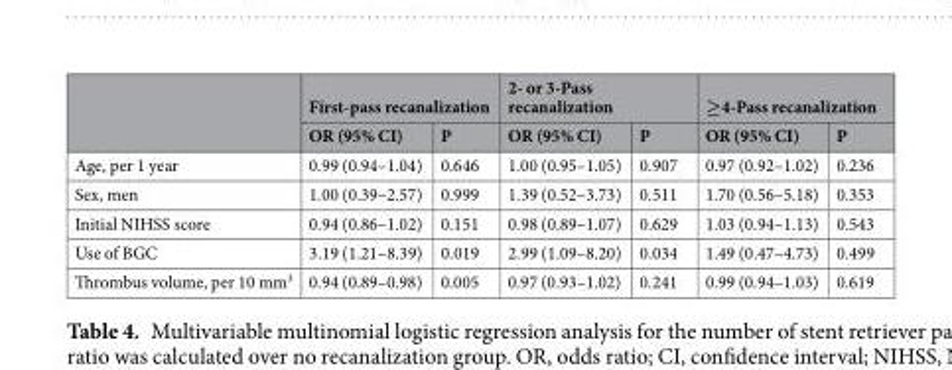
<table><thead><tr><td rowspan="2"></td><td colspan="2">First-pass recanalization</td><td colspan="2">2- or 3-Pass recanalization</td><td colspan="2">≥4-Pass recanalization</td></tr><tr><td>OR (95% CI)</td><td>P</td><td>OR (95% CI)</td><td>P</td><td>OR (95% CI)</td><td>P</td></tr></thead><tbody><tr><td>Age, per 1 year</td><td>0.99 (0.94–1.04)</td><td>0.646</td><td>1.00 (0.95–1.05)</td><td>0.907</td><td>0.97 (0.92–1.02)</td><td>0.236</td></tr><tr><td>Sex, men</td><td>1.00 (0.39–2.57)</td><td>0.999</td><td>1.39 (0.52–3.73)</td><td>0.511</td><td>1.70 (0.56–5.18)</td><td>0.353</td></tr><tr><td>Initial NIHSS score</td><td>0.94 (0.86–1.02)</td><td>0.151</td><td>0.98 (0.89–1.07)</td><td>0.629</td><td>1.03 (0.94–1.13)</td><td>0.543</td></tr><tr><td>Use of BGC</td><td>3.19 (1.21–8.39)</td><td>0.019</td><td>2.99 (1.09–8.20)</td><td>0.034</td><td>1.49 (0.47–4.73)</td><td>0.499</td></tr><tr><td>Thrombus volume, per 10 mm<sup>3</sup></td><td>0.94 (0.89–0.98)</td><td>0.005</td><td>0.97 (0.93–1.02)</td><td>0.241</td><td>0.99 (0.94–1.03)</td><td>0.619</td></tr></tbody></table>